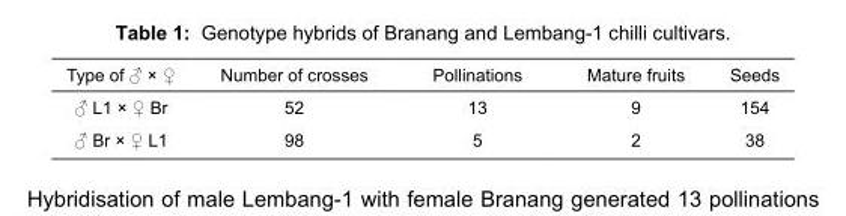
<table><thead><tr><td>Type of ♂ × ♀</td><td>Number of crosses</td><td>Pollinations</td><td>Mature fruits</td><td>Seeds</td></tr></thead><tbody><tr><td>♂ L1 × ♀ Br</td><td>52</td><td>13</td><td>9</td><td>154</td></tr><tr><td>♂ Br × ♀ L1</td><td>98</td><td>5</td><td>2</td><td>38</td></tr></tbody></table>